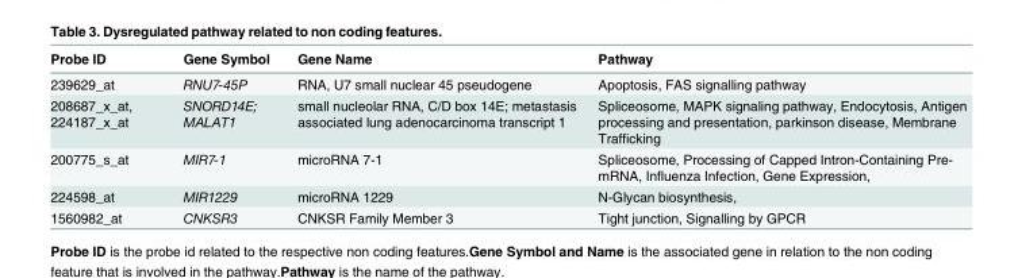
<table><thead><tr><td>Probe ID</td><td>Gene Symbol</td><td>Gene Name</td><td>Pathway</td></tr></thead><tbody><tr><td>239629_at</td><td>RNU7-45P</td><td>RNA, U7 small nuclear 45 pseudogene</td><td>Apoptosis, FAS signalling pathway</td></tr><tr><td>208687_x_at, 224187_x_at</td><td>SNORD14E; MALAT1</td><td>small nucleolar RNA, C/D box 14E; metastasis associated lung adenocarcinoma transcript 1</td><td>Spliceosome, MAPK signaling pathway, Endocytosis, Antigen processing and presentation, parkinson disease, Membrane Trafficking</td></tr><tr><td>200775_s_at</td><td>MIR7-1</td><td>microRNA 7-1</td><td>Spliceosome, Processing of Capped Intron-Containing Pre- mRNA, Influenza Infection, Gene Expression,</td></tr><tr><td>224598_at</td><td>MIR1229</td><td>microRNA 1229</td><td>N-Glycan biosynthesis,</td></tr><tr><td>1560982_at</td><td>CNKSR3</td><td>CNKSR Family Member 3</td><td>Tight junction, Signalling by GPCR</td></tr></tbody></table>